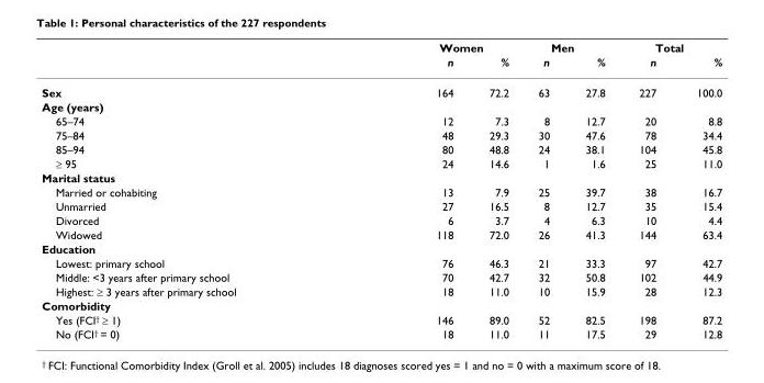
<table><thead><tr><td rowspan="2"></td><td colspan="2">Women</td><td colspan="2">Men</td><td colspan="2">Total</td></tr><tr><td>n</td><td>%</td><td>n</td><td>%</td><td>n</td><td>%</td></tr></thead><tbody><tr><td>Sex</td><td>164</td><td>72.2</td><td>63</td><td>27.8</td><td>227</td><td>100.0</td></tr><tr><td colspan="7">Age (years)</td></tr><tr><td>65–74</td><td>12</td><td>7.3</td><td>8</td><td>12.7</td><td>20</td><td>8.8</td></tr><tr><td>75–84</td><td>48</td><td>29.3</td><td>30</td><td>47.6</td><td>78</td><td>34.4</td></tr><tr><td>85–94</td><td>80</td><td>48.8</td><td>24</td><td>38.1</td><td>104</td><td>45.8</td></tr><tr><td>≥ 95</td><td>24</td><td>14.6</td><td>1</td><td>1.6</td><td>25</td><td>11.0</td></tr><tr><td colspan="7">Marital status</td></tr><tr><td>Married or cohabiting</td><td>13</td><td>7.9</td><td>25</td><td>39.7</td><td>38</td><td>16.7</td></tr><tr><td>Unmarried</td><td>27</td><td>16.5</td><td>8</td><td>12.7</td><td>35</td><td>15.4</td></tr><tr><td>Divorced</td><td>6</td><td>3.7</td><td>4</td><td>6.3</td><td>10</td><td>4.4</td></tr><tr><td>Widowed</td><td>118</td><td>72.0</td><td>26</td><td>41.3</td><td>144</td><td>63.4</td></tr><tr><td colspan="7">Education</td></tr><tr><td>Lowest: primary school</td><td>76</td><td>46.3</td><td>21</td><td>33.3</td><td>97</td><td>42.7</td></tr><tr><td>Middle: &lt;3 years after primary school</td><td>70</td><td>42.7</td><td>32</td><td>50.8</td><td>102</td><td>44.9</td></tr><tr><td>Highest: ≥ 3 years after primary school</td><td>18</td><td>11.0</td><td>10</td><td>15.9</td><td>28</td><td>12.3</td></tr><tr><td colspan="7">Comorbidity</td></tr><tr><td>Yes (FCI<sup>†</sup> ≥ 1)</td><td>146</td><td>89.0</td><td>52</td><td>82.5</td><td>198</td><td>87.2</td></tr><tr><td>No (FCI<sup>†</sup> = 0)</td><td>18</td><td>11.0</td><td>11</td><td>17.5</td><td>29</td><td>12.8</td></tr></tbody></table>